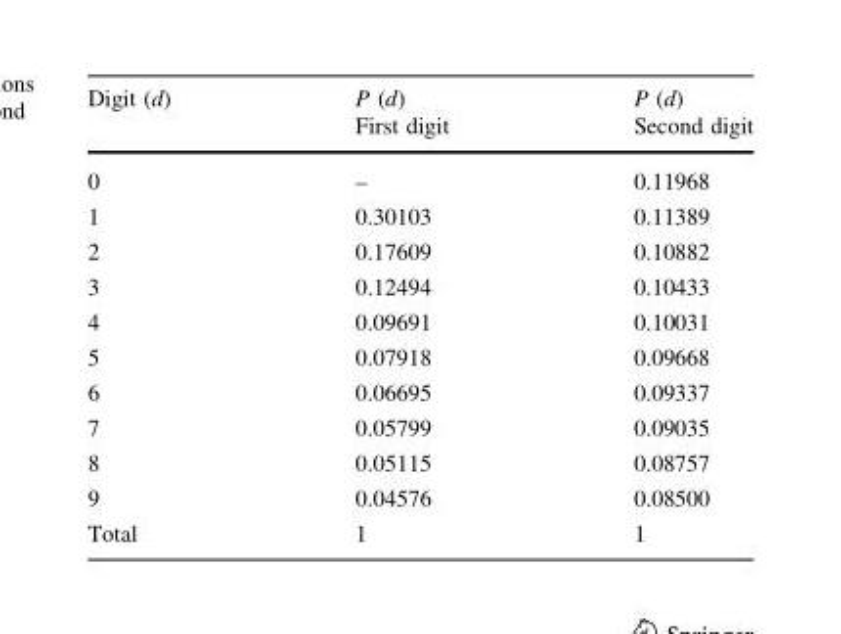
<table><thead><tr><td>Digit (d)</td><td>P (d) First digit</td><td>P (d) Second digit</td></tr></thead><tbody><tr><td>0</td><td>–</td><td>0.11968</td></tr><tr><td>1</td><td>0.30103</td><td>0.11389</td></tr><tr><td>2</td><td>0.17609</td><td>0.10882</td></tr><tr><td>3</td><td>0.12494</td><td>0.10433</td></tr><tr><td>4</td><td>0.09691</td><td>0.10031</td></tr><tr><td>5</td><td>0.07918</td><td>0.09668</td></tr><tr><td>6</td><td>0.06695</td><td>0.09337</td></tr><tr><td>7</td><td>0.05799</td><td>0.09035</td></tr><tr><td>8</td><td>0.05115</td><td>0.08757</td></tr><tr><td>9</td><td>0.04576</td><td>0.08500</td></tr><tr><td>Total</td><td>1</td><td>1</td></tr></tbody></table>